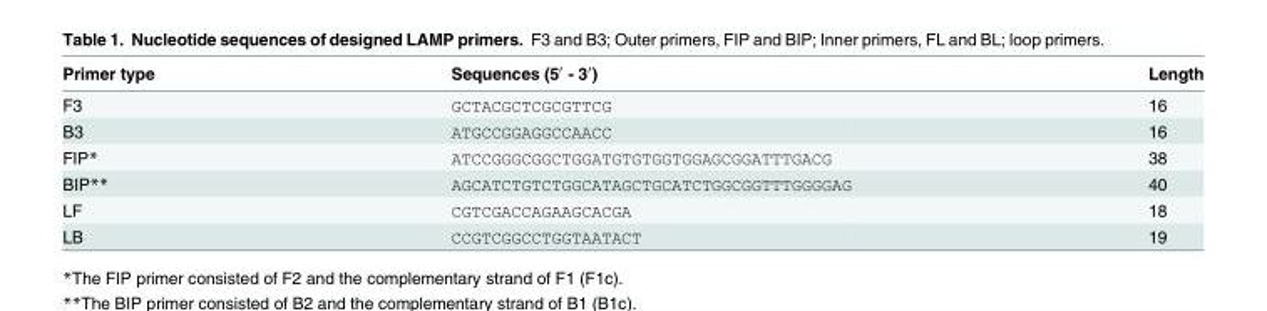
<table><thead><tr><td>Primer type</td><td>Sequences (5′ - 3′)</td><td>Length</td></tr></thead><tbody><tr><td>F3</td><td>GCTACGCTCGCGTTCG</td><td>16</td></tr><tr><td>B3</td><td>ATGCCGGAGGCCAACC</td><td>16</td></tr><tr><td>FIP*</td><td>ATCCGGGCGGCTGGATGTGTGGTGGAGCGGATTTGACG</td><td>38</td></tr><tr><td>BIP**</td><td>AGCATCTGTCTGGCATAGCTGCATCTGGCGGTTTGGGGAG</td><td>40</td></tr><tr><td>LF</td><td>CGTCGACCAGAAGCACGA</td><td>18</td></tr><tr><td>LB</td><td>CCGTCGGCCTGGTAATACT</td><td>19</td></tr></tbody></table>